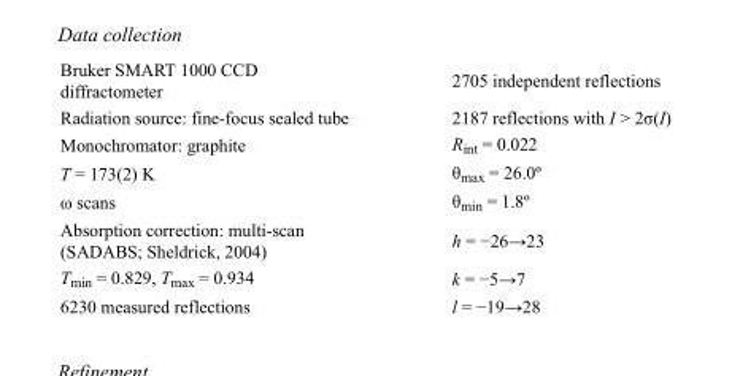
<table><tbody><tr><td>Bruker SMART 1000 CCD diffractometer</td><td>2705 independent reflections</td></tr><tr><td>Radiation source: fine-focus sealed tube</td><td>2187 reflections with I &gt; 2σ(I)</td></tr><tr><td>Monochromator: graphite</td><td>R<sub>int</sub> = 0.022</td></tr><tr><td>T = 173(2) K</td><td>θ<sub>max</sub> = 26.0º</td></tr><tr><td>ω scans</td><td>θ<sub>min</sub> = 1.8º</td></tr><tr><td>Absorption correction: multi-scan (SADABS; Sheldrick, 2004)</td><td>h = −26→23</td></tr><tr><td>T<sub>min</sub> = 0.829, T<sub>max</sub> = 0.934</td><td>k = −5→7</td></tr><tr><td>6230 measured reflections</td><td>l = −19→28</td></tr></tbody></table>